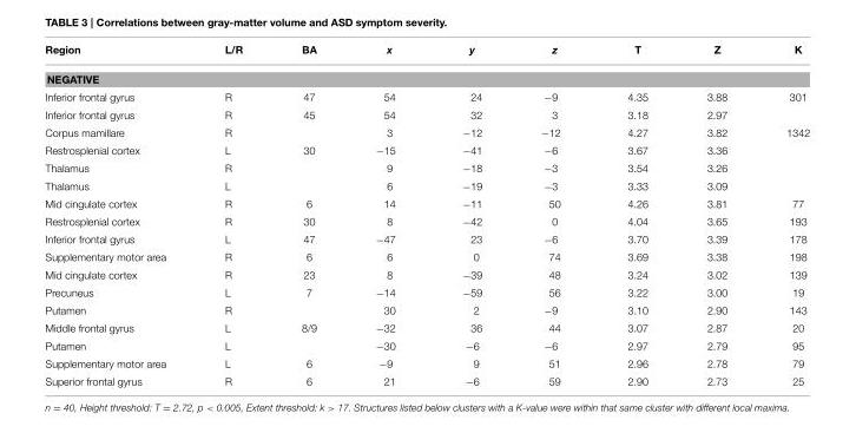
<table><thead><tr><td>Region</td><td>L/R</td><td>BA</td><td>x</td><td>y</td><td>z</td><td>T</td><td>Z</td><td>K</td></tr></thead><tbody><tr><td colspan="9">NEGATIVE</td></tr><tr><td>Inferior frontal gyrus</td><td>R</td><td>47</td><td>54</td><td>24</td><td>−9</td><td>4.35</td><td>3.88</td><td>301</td></tr><tr><td>Inferior frontal gyrus</td><td>R</td><td>45</td><td>54</td><td>32</td><td>3</td><td>3.18</td><td>2.97</td><td></td></tr><tr><td>Corpus mamillare</td><td>R</td><td></td><td>3</td><td>−12</td><td>−12</td><td>4.27</td><td>3.82</td><td>1342</td></tr><tr><td>Restrosplenial cortex</td><td>L</td><td>30</td><td>−15</td><td>−41</td><td>−6</td><td>3.67</td><td>3.36</td><td></td></tr><tr><td>Thalamus</td><td>R</td><td></td><td>9</td><td>−18</td><td>−3</td><td>3.54</td><td>3.26</td><td></td></tr><tr><td>Thalamus</td><td>L</td><td></td><td>6</td><td>−19</td><td>−3</td><td>3.33</td><td>3.09</td><td></td></tr><tr><td>Mid cingulate cortex</td><td>R</td><td>6</td><td>14</td><td>−11</td><td>50</td><td>4.26</td><td>3.81</td><td>77</td></tr><tr><td>Restrosplenial cortex</td><td>R</td><td>30</td><td>8</td><td>−42</td><td>0</td><td>4.04</td><td>3.65</td><td>193</td></tr><tr><td>Inferior frontal gyrus</td><td>L</td><td>47</td><td>−47</td><td>23</td><td>−6</td><td>3.70</td><td>3.39</td><td>178</td></tr><tr><td>Supplementary motor area</td><td>R</td><td>6</td><td>6</td><td>0</td><td>74</td><td>3.69</td><td>3.38</td><td>198</td></tr><tr><td>Mid cingulate cortex</td><td>R</td><td>23</td><td>8</td><td>−39</td><td>48</td><td>3.24</td><td>3.02</td><td>139</td></tr><tr><td>Precuneus</td><td>L</td><td>7</td><td>−14</td><td>−59</td><td>56</td><td>3.22</td><td>3.00</td><td>19</td></tr><tr><td>Putamen</td><td>R</td><td></td><td>30</td><td>2</td><td>−9</td><td>3.10</td><td>2.90</td><td>143</td></tr><tr><td>Middle frontal gyrus</td><td>L</td><td>8/9</td><td>−32</td><td>36</td><td>44</td><td>3.07</td><td>2.87</td><td>20</td></tr><tr><td>Putamen</td><td>L</td><td></td><td>−30</td><td>−6</td><td>−6</td><td>2.97</td><td>2.79</td><td>95</td></tr><tr><td>Supplementary motor area</td><td>L</td><td>6</td><td>−9</td><td>9</td><td>51</td><td>2.96</td><td>2.78</td><td>79</td></tr><tr><td>Superior frontal gyrus</td><td>R</td><td>6</td><td>21</td><td>−6</td><td>59</td><td>2.90</td><td>2.73</td><td>25</td></tr></tbody></table>